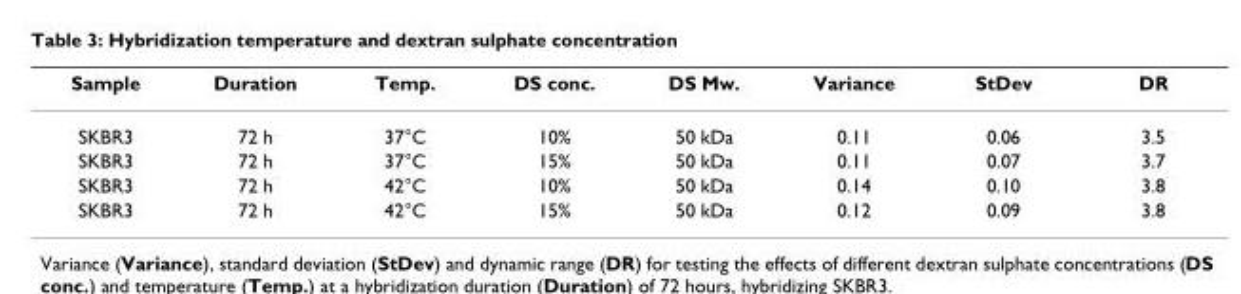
<table><thead><tr><td>Sample</td><td>Duration</td><td>Temp.</td><td>DS conc.</td><td>DS Mw.</td><td>Variance</td><td>StDev</td><td>DR</td></tr></thead><tbody><tr><td>SKBR3</td><td>72 h</td><td>37°C</td><td>10%</td><td>50 kDa</td><td>0.11</td><td>0.06</td><td>3.5</td></tr><tr><td>SKBR3</td><td>72 h</td><td>37°C</td><td>15%</td><td>50 kDa</td><td>0.11</td><td>0.07</td><td>3.7</td></tr><tr><td>SKBR3</td><td>72 h</td><td>42°C</td><td>10%</td><td>50 kDa</td><td>0.14</td><td>0.10</td><td>3.8</td></tr><tr><td>SKBR3</td><td>72 h</td><td>42°C</td><td>15%</td><td>50 kDa</td><td>0.12</td><td>0.09</td><td>3.8</td></tr></tbody></table>